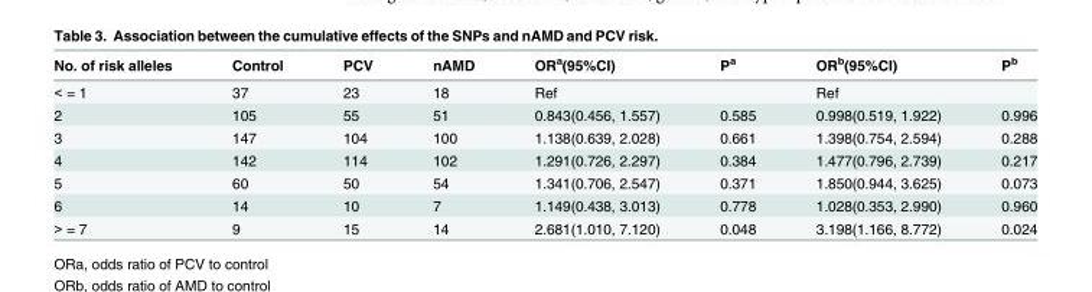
<table><thead><tr><td>No. of risk alleles</td><td>Control</td><td>PCV</td><td>nAMD</td><td>OR<sup>a</sup>(95%CI)</td><td>P<sup>a</sup></td><td>OR<sup>b</sup>(95%CI)</td><td>P<sup>b</sup></td></tr></thead><tbody><tr><td>&lt; = 1</td><td>37</td><td>23</td><td>18</td><td>Ref</td><td></td><td>Ref</td><td></td></tr><tr><td>2</td><td>105</td><td>55</td><td>51</td><td>0.843(0.456, 1.557)</td><td>0.585</td><td>0.998(0.519, 1.922)</td><td>0.996</td></tr><tr><td>3</td><td>147</td><td>104</td><td>100</td><td>1.138(0.639, 2.028)</td><td>0.661</td><td>1.398(0.754, 2.594)</td><td>0.288</td></tr><tr><td>4</td><td>142</td><td>114</td><td>102</td><td>1.291(0.726, 2.297)</td><td>0.384</td><td>1.477(0.796, 2.739)</td><td>0.217</td></tr><tr><td>5</td><td>60</td><td>50</td><td>54</td><td>1.341(0.706, 2.547)</td><td>0.371</td><td>1.850(0.944, 3.625)</td><td>0.073</td></tr><tr><td>6</td><td>14</td><td>10</td><td>7</td><td>1.149(0.438, 3.013)</td><td>0.778</td><td>1.028(0.353, 2.990)</td><td>0.960</td></tr><tr><td>&gt; = 7</td><td>9</td><td>15</td><td>14</td><td>2.681(1.010, 7.120)</td><td>0.048</td><td>3.198(1.166, 8.772)</td><td>0.024</td></tr></tbody></table>